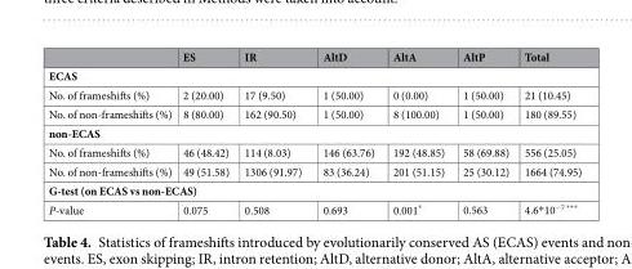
<table><thead><tr><td></td><td>ES</td><td>IR</td><td>AltD</td><td>AltA</td><td>AltP</td><td>Total</td></tr></thead><tbody><tr><td colspan="7">ECAS</td></tr><tr><td>No. of frameshifts (%)</td><td>2 (20.00)</td><td>17 (9.50)</td><td>1 (50.00)</td><td>0 (0.00)</td><td>1 (50.00)</td><td>21 (10.45)</td></tr><tr><td>No. of non-frameshifts (%)</td><td>8 (80.00)</td><td>162 (90.50)</td><td>1 (50.00)</td><td>8 (100.00)</td><td>1 (50.00)</td><td>180 (89.55)</td></tr><tr><td colspan="7">non-ECAS</td></tr><tr><td>No. of frameshifts (%)</td><td>46 (48.42)</td><td>114 (8.03)</td><td>146 (63.76)</td><td>192 (48.85)</td><td>58 (69.88)</td><td>556 (25.05)</td></tr><tr><td>No. of non-frameshifts (%)</td><td>49 (51.58)</td><td>1306 (91.97)</td><td>83 (36.24)</td><td>201 (51.15)</td><td>25 (30.12)</td><td>1664 (74.95)</td></tr><tr><td colspan="7">G-test (on ECAS vs non-ECAS)</td></tr><tr><td>P-value</td><td>0.075</td><td>0.508</td><td>0.693</td><td>0.001*</td><td>0.563</td><td>4.6*10<sup>−7 ***</sup></td></tr></tbody></table>